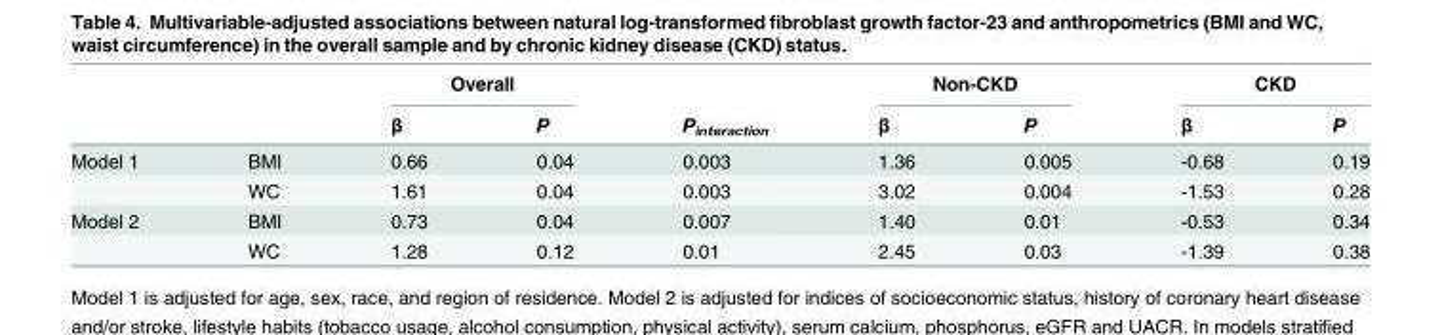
<table><thead><tr><td rowspan="2"></td><td rowspan="2"></td><td colspan="2">Overall</td><td rowspan="2">P<sub>interaction</sub></td><td colspan="2">Non-CKD</td><td colspan="2">CKD</td></tr><tr><td>β</td><td>P</td><td>β</td><td>P</td><td>β</td><td>P</td></tr></thead><tbody><tr><td rowspan="2">Model 1</td><td>BMI</td><td>0.66</td><td>0.04</td><td>0.003</td><td>1.36</td><td>0.005</td><td>-0.68</td><td>0.19</td></tr><tr><td>WC</td><td>1.61</td><td>0.04</td><td>0.003</td><td>3.02</td><td>0.004</td><td>-1.53</td><td>0.28</td></tr><tr><td rowspan="2">Model 2</td><td>BMI</td><td>0.73</td><td>0.04</td><td>0.007</td><td>1.40</td><td>0.01</td><td>-0.53</td><td>0.34</td></tr><tr><td>WC</td><td>1.28</td><td>0.12</td><td>0.01</td><td>2.45</td><td>0.03</td><td>-1.39</td><td>0.38</td></tr></tbody></table>